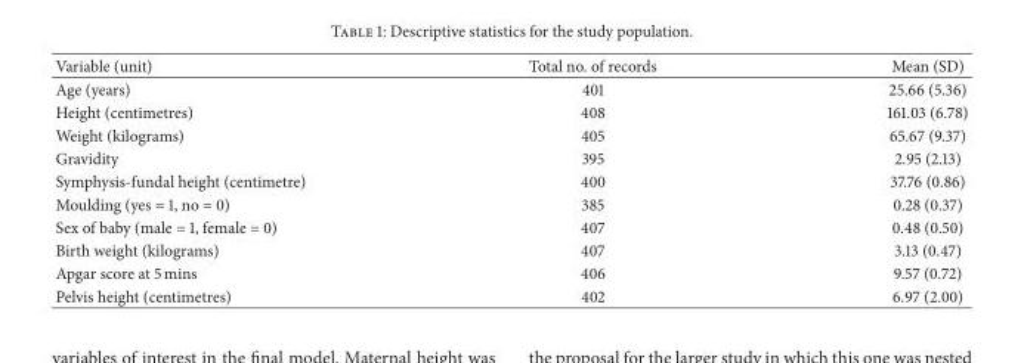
<table><thead><tr><td>Variable (unit)</td><td>Total no. of records</td><td>Mean (SD)</td></tr></thead><tbody><tr><td>Age (years)</td><td>401</td><td>25.66 (5.36)</td></tr><tr><td>Height (centimetres)</td><td>408</td><td>161.03 (6.78)</td></tr><tr><td>Weight (kilograms)</td><td>405</td><td>65.67 (9.37)</td></tr><tr><td>Gravidity</td><td>395</td><td>2.95 (2.13)</td></tr><tr><td>Symphysis-fundal height (centimetre)</td><td>400</td><td>37.76 (0.86)</td></tr><tr><td>Moulding (yes = 1, no = 0)</td><td>385</td><td>0.28 (0.37)</td></tr><tr><td>Sex of baby (male = 1, female = 0)</td><td>407</td><td>0.48 (0.50)</td></tr><tr><td>Birth weight (kilograms)</td><td>407</td><td>3.13 (0.47)</td></tr><tr><td>Apgar score at 5 mins</td><td>406</td><td>9.57 (0.72)</td></tr><tr><td>Pelvis height (centimetres)</td><td>402</td><td>6.97 (2.00)</td></tr></tbody></table>